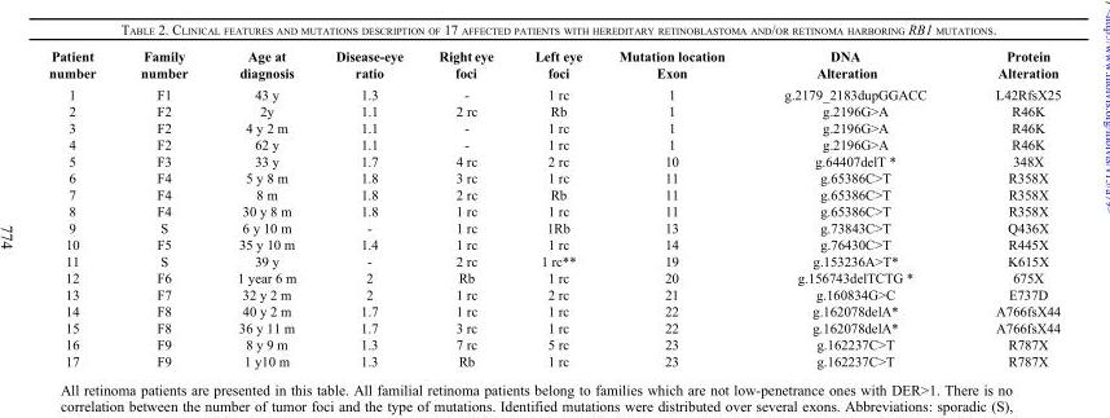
<table><thead><tr><td>Patient number</td><td>Family number</td><td>Age at diagnosis</td><td>Disease-eye ratio</td><td>Right eye foci</td><td>Left eye foci</td><td>Mutation location Exon</td><td>DNA Alteration</td><td>Protein Alteration</td></tr></thead><tbody><tr><td>1</td><td>F1</td><td>43 y</td><td>1.3</td><td>-</td><td>1 rc</td><td>1</td><td>g.2179_2183dupGGACC</td><td>L42RfsX25</td></tr><tr><td>2</td><td>F2</td><td>2y</td><td>1.1</td><td>2 rc</td><td>Rb</td><td>1</td><td>g.2196G&gt;A</td><td>R46K</td></tr><tr><td>3</td><td>F2</td><td>4 y 2 m</td><td>1.1</td><td>-</td><td>1 rc</td><td>1</td><td>g.2196G&gt;A</td><td>R46K</td></tr><tr><td>4</td><td>F2</td><td>62 y</td><td>1.1</td><td>-</td><td>1 rc</td><td>1</td><td>g.2196G&gt;A</td><td>R46K</td></tr><tr><td>5</td><td>F3</td><td>33 y</td><td>1.7</td><td>4 rc</td><td>2 rc</td><td>10</td><td>g.64407delT *</td><td>348X</td></tr><tr><td>6</td><td>F4</td><td>5 y 8 m</td><td>1.8</td><td>3 rc</td><td>1 rc</td><td>11</td><td>g.65386C&gt;T</td><td>R358X</td></tr><tr><td>7</td><td>F4</td><td>8 m</td><td>1.8</td><td>2 rc</td><td>Rb</td><td>11</td><td>g.65386C&gt;T</td><td>R358X</td></tr><tr><td>8</td><td>F4</td><td>30 y 8 m</td><td>1.8</td><td>1 rc</td><td>1 rc</td><td>11</td><td>g.65386C&gt;T</td><td>R358X</td></tr><tr><td>9</td><td>S</td><td>6 y 10 m</td><td>-</td><td>1 rc</td><td>1Rb</td><td>13</td><td>g.73843C&gt;T</td><td>Q436X</td></tr><tr><td>10</td><td>F5</td><td>35 y 10 m</td><td>1.4</td><td>1 rc</td><td>1 rc</td><td>14</td><td>g.76430C&gt;T</td><td>R445X</td></tr><tr><td>11</td><td>S</td><td>39 y</td><td>-</td><td>2 rc</td><td>1 rc**</td><td>19</td><td>g.153236A&gt;T*</td><td>K615X</td></tr><tr><td>12</td><td>F6</td><td>1 year 6 m</td><td>2</td><td>Rb</td><td>1 rc</td><td>20</td><td>g.156743delTCTG *</td><td>675X</td></tr><tr><td>13</td><td>F7</td><td>32 y 2 m</td><td>2</td><td>1 rc</td><td>2 rc</td><td>21</td><td>g.160834G&gt;C</td><td>E737D</td></tr><tr><td>14</td><td>F8</td><td>40 y 2 m</td><td>1.7</td><td>1 rc</td><td>1 rc</td><td>22</td><td>g.162078delA*</td><td>A766fsX44</td></tr><tr><td>15</td><td>F8</td><td>36 y 11 m</td><td>1.7</td><td>3 rc</td><td>1 rc</td><td>22</td><td>g.162078delA*</td><td>A766fsX44</td></tr><tr><td>16</td><td>F9</td><td>8 y 9 m</td><td>1.3</td><td>7 rc</td><td>5 rc</td><td>23</td><td>g.162237C&gt;T</td><td>R787X</td></tr><tr><td>17</td><td>F9</td><td>1 y10 m</td><td>1.3</td><td>Rb</td><td>1 rc</td><td>23</td><td>g.162237C&gt;T</td><td>R787X</td></tr></tbody></table>